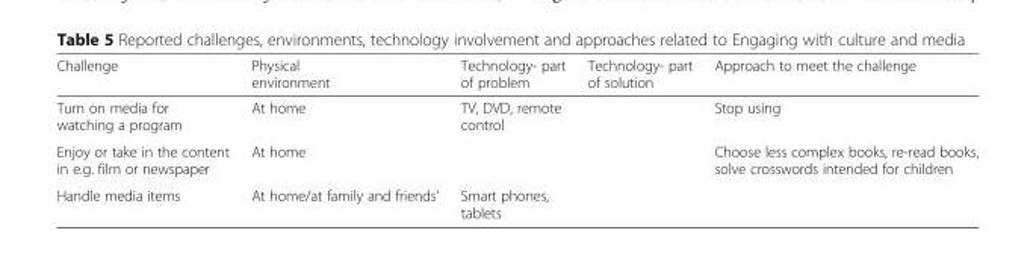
<table><thead><tr><td>Challenge</td><td>Physical environment</td><td>Technology- part of problem</td><td>Technology- part of solution</td><td>Approach to meet the challenge</td></tr></thead><tbody><tr><td>Turn on media for watching a program</td><td>At home</td><td>TV, DVD, remote control</td><td></td><td>Stop using</td></tr><tr><td>Enjoy or take in the content in e.g. film or newspaper</td><td>At home</td><td></td><td></td><td>Choose less complex books, re-read books, solve crosswords intended for children</td></tr><tr><td>Handle media items</td><td>At home/at family and friends’</td><td>Smart phones, tablets</td><td></td><td></td></tr></tbody></table>